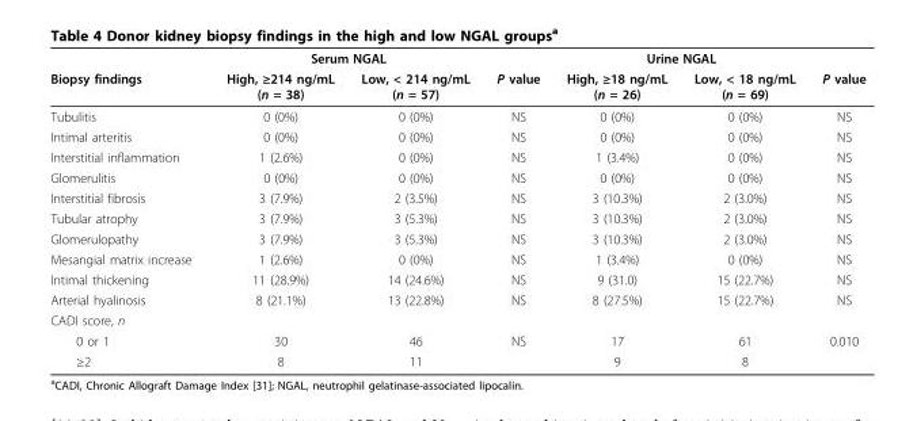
<table><thead><tr><td rowspan="2">Biopsy findings</td><td colspan="2">Serum NGAL</td><td rowspan="2">P value</td><td colspan="2">Urine NGAL</td><td rowspan="2">P value</td></tr><tr><td>High, ≥214 ng/mL (n = 38)</td><td>Low, &lt; 214 ng/mL (n = 57)</td><td>High, ≥18 ng/mL (n = 26)</td><td>Low, &lt; 18 ng/mL (n = 69)</td></tr></thead><tbody><tr><td>Tubulitis</td><td>0 (0%)</td><td>0 (0%)</td><td>NS</td><td>0 (0%)</td><td>0 (0%)</td><td>NS</td></tr><tr><td>Intimal arteritis</td><td>0 (0%)</td><td>0 (0%)</td><td>NS</td><td>0 (0%)</td><td>0 (0%)</td><td>NS</td></tr><tr><td>Interstitial inflammation</td><td>1 (2.6%)</td><td>0 (0%)</td><td>NS</td><td>1 (3.4%)</td><td>0 (0%)</td><td>NS</td></tr><tr><td>Glomerulitis</td><td>0 (0%)</td><td>0 (0%)</td><td>NS</td><td>0 (0%)</td><td>0 (0%)</td><td>NS</td></tr><tr><td>Interstitial fibrosis</td><td>3 (7.9%)</td><td>2 (3.5%)</td><td>NS</td><td>3 (10.3%)</td><td>2 (3.0%)</td><td>NS</td></tr><tr><td>Tubular atrophy</td><td>3 (7.9%)</td><td>3 (5.3%)</td><td>NS</td><td>3 (10.3%)</td><td>2 (3.0%)</td><td>NS</td></tr><tr><td>Glomerulopathy</td><td>3 (7.9%)</td><td>3 (5.3%)</td><td>NS</td><td>3 (10.3%)</td><td>2 (3.0%)</td><td>NS</td></tr><tr><td>Mesangial matrix increase</td><td>1 (2.6%)</td><td>0 (0%)</td><td>NS</td><td>1 (3.4%)</td><td>0 (0%)</td><td>NS</td></tr><tr><td>Intimal thickening</td><td>11 (28.9%)</td><td>14 (24.6%)</td><td>NS</td><td>9 (31.0)</td><td>15 (22.7%)</td><td>NS</td></tr><tr><td>Arterial hyalinosis</td><td>8 (21.1%)</td><td>13 (22.8%)</td><td>NS</td><td>8 (27.5%)</td><td>15 (22.7%)</td><td>NS</td></tr><tr><td colspan="7">CADI score, n</td></tr><tr><td>0 or 1</td><td>30</td><td>46</td><td>NS</td><td>17</td><td>61</td><td>0.010</td></tr><tr><td>≥2</td><td>8</td><td>11</td><td></td><td>9</td><td>8</td><td></td></tr></tbody></table>